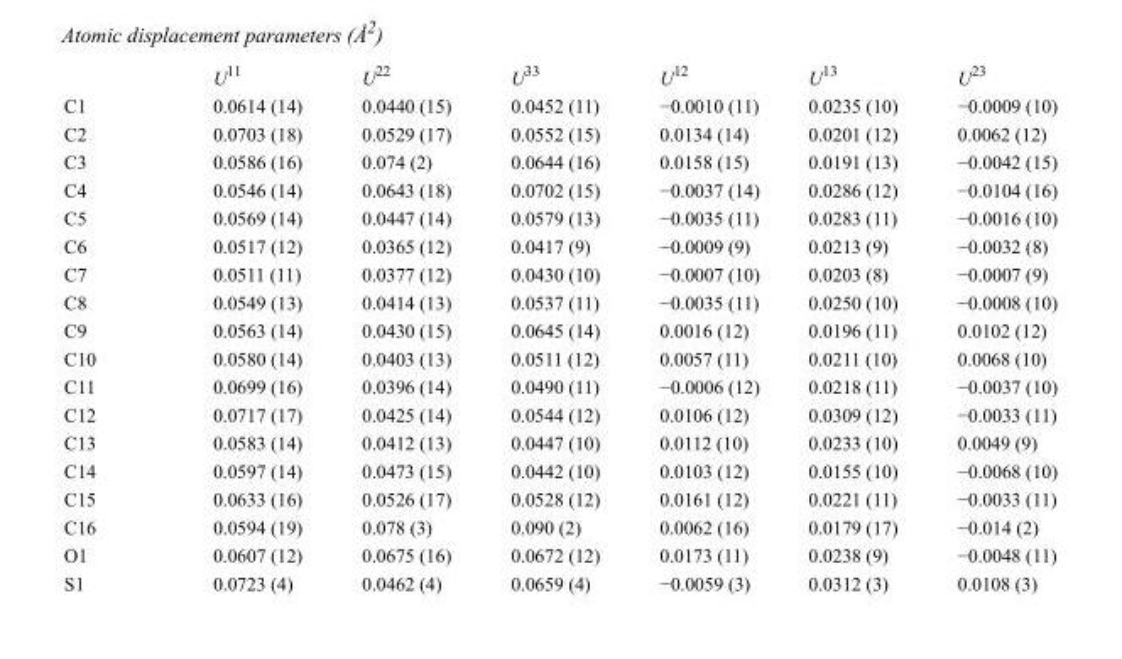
<table><thead><tr><td></td><td>U<sup>11</sup></td><td>U<sup>22</sup></td><td>U<sup>33</sup></td><td>U<sup>12</sup></td><td>U<sup>13</sup></td><td>U<sup>23</sup></td></tr></thead><tbody><tr><td>C1</td><td>0.0614 (14)</td><td>0.0440 (15)</td><td>0.0452 (11)</td><td>−0.0010 (11)</td><td>0.0235 (10)</td><td>−0.0009 (10)</td></tr><tr><td>C2</td><td>0.0703 (18)</td><td>0.0529 (17)</td><td>0.0552 (15)</td><td>0.0134 (14)</td><td>0.0201 (12)</td><td>0.0062 (12)</td></tr><tr><td>C3</td><td>0.0586 (16)</td><td>0.074 (2)</td><td>0.0644 (16)</td><td>0.0158 (15)</td><td>0.0191 (13)</td><td>−0.0042 (15)</td></tr><tr><td>C4</td><td>0.0546 (14)</td><td>0.0643 (18)</td><td>0.0702 (15)</td><td>−0.0037 (14)</td><td>0.0286 (12)</td><td>−0.0104 (16)</td></tr><tr><td>C5</td><td>0.0569 (14)</td><td>0.0447 (14)</td><td>0.0579 (13)</td><td>−0.0035 (11)</td><td>0.0283 (11)</td><td>−0.0016 (10)</td></tr><tr><td>C6</td><td>0.0517 (12)</td><td>0.0365 (12)</td><td>0.0417 (9)</td><td>−0.0009 (9)</td><td>0.0213 (9)</td><td>−0.0032 (8)</td></tr><tr><td>C7</td><td>0.0511 (11)</td><td>0.0377 (12)</td><td>0.0430 (10)</td><td>−0.0007 (10)</td><td>0.0203 (8)</td><td>−0.0007 (9)</td></tr><tr><td>C8</td><td>0.0549 (13)</td><td>0.0414 (13)</td><td>0.0537 (11)</td><td>−0.0035 (11)</td><td>0.0250 (10)</td><td>−0.0008 (10)</td></tr><tr><td>C9</td><td>0.0563 (14)</td><td>0.0430 (15)</td><td>0.0645 (14)</td><td>0.0016 (12)</td><td>0.0196 (11)</td><td>0.0102 (12)</td></tr><tr><td>C10</td><td>0.0580 (14)</td><td>0.0403 (13)</td><td>0.0511 (12)</td><td>0.0057 (11)</td><td>0.0211 (10)</td><td>0.0068 (10)</td></tr><tr><td>C11</td><td>0.0699 (16)</td><td>0.0396 (14)</td><td>0.0490 (11)</td><td>−0.0006 (12)</td><td>0.0218 (11)</td><td>−0.0037 (10)</td></tr><tr><td>C12</td><td>0.0717 (17)</td><td>0.0425 (14)</td><td>0.0544 (12)</td><td>0.0106 (12)</td><td>0.0309 (12)</td><td>−0.0033 (11)</td></tr><tr><td>C13</td><td>0.0583 (14)</td><td>0.0412 (13)</td><td>0.0447 (10)</td><td>0.0112 (10)</td><td>0.0233 (10)</td><td>0.0049 (9)</td></tr><tr><td>C14</td><td>0.0597 (14)</td><td>0.0473 (15)</td><td>0.0442 (10)</td><td>0.0103 (12)</td><td>0.0155 (10)</td><td>−0.0068 (10)</td></tr><tr><td>C15</td><td>0.0633 (16)</td><td>0.0526 (17)</td><td>0.0528 (12)</td><td>0.0161 (12)</td><td>0.0221 (11)</td><td>−0.0033 (11)</td></tr><tr><td>C16</td><td>0.0594 (19)</td><td>0.078 (3)</td><td>0.090 (2)</td><td>0.0062 (16)</td><td>0.0179 (17)</td><td>−0.014 (2)</td></tr><tr><td>O1</td><td>0.0607 (12)</td><td>0.0675 (16)</td><td>0.0672 (12)</td><td>0.0173 (11)</td><td>0.0238 (9)</td><td>−0.0048 (11)</td></tr><tr><td>S1</td><td>0.0723 (4)</td><td>0.0462 (4)</td><td>0.0659 (4)</td><td>−0.0059 (3)</td><td>0.0312 (3)</td><td>0.0108 (3)</td></tr></tbody></table>